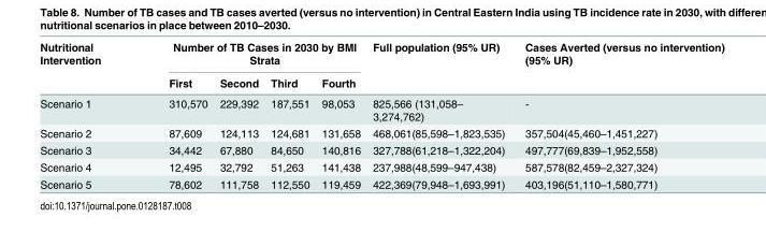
<table><thead><tr><td rowspan="2">Nutritional Intervention</td><td colspan="4">Number of TB Cases in 2030 by BMI Strata</td><td rowspan="2">Full population (95% UR)</td><td rowspan="2">Cases Averted (versus no intervention) (95% UR)</td></tr><tr><td>First</td><td>Second</td><td>Third</td><td>Fourth</td></tr></thead><tbody><tr><td>Scenario 1</td><td>310,570</td><td>229,392</td><td>187,551</td><td>98,053</td><td>825,566 (131,058– 3,274,762)</td><td>-</td></tr><tr><td>Scenario 2</td><td>87,609</td><td>124,113</td><td>124,681</td><td>131,658</td><td>468,061(85,598–1,823,535)</td><td>357,504(45,460–1,451,227)</td></tr><tr><td>Scenario 3</td><td>34,442</td><td>67,880</td><td>84,650</td><td>140,816</td><td>327,788(61,218–1,322,204)</td><td>497,777(69,839–1,952,558)</td></tr><tr><td>Scenario 4</td><td>12,495</td><td>32,792</td><td>51,263</td><td>141,438</td><td>237,988(48,599–947,438)</td><td>587,578(82,459–2,327,324)</td></tr><tr><td>Scenario 5</td><td>78,602</td><td>111,758</td><td>112,550</td><td>119,459</td><td>422,369(79,948–1,693,991)</td><td>403,196(51,110–1,580,771)</td></tr></tbody></table>